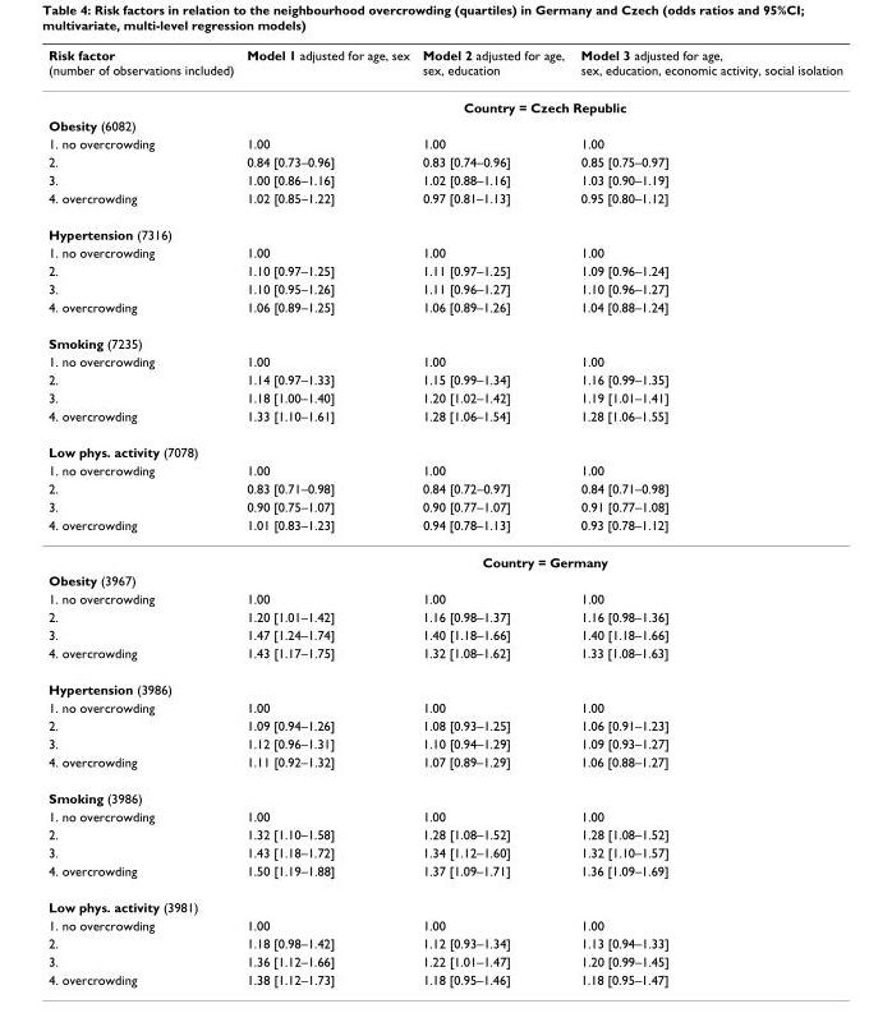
<table><thead><tr><td>Risk factor (number of observations included)</td><td>Model 1 adjusted for age, sex</td><td>Model 2 adjusted for age, sex, education</td><td>Model 3 adjusted for age, sex, education, economic activity, social isolation</td></tr></thead><tbody><tr><td></td><td colspan="3">Country = Czech Republic</td></tr><tr><td colspan="4">Obesity (6082)</td></tr><tr><td>1. no overcrowding</td><td>1.00</td><td>1.00</td><td>1.00</td></tr><tr><td>2.</td><td>0.84 [0.73–0.96]</td><td>0.83 [0.74–0.96]</td><td>0.85 [0.75–0.97]</td></tr><tr><td>3.</td><td>1.00 [0.86–1.16]</td><td>1.02 [0.88–1.16]</td><td>1.03 [0.90–1.19]</td></tr><tr><td>4. overcrowding</td><td>1.02 [0.85–1.22]</td><td>0.97 [0.81–1.13]</td><td>0.95 [0.80–1.12]</td></tr><tr><td colspan="4">Hypertension (7316)</td></tr><tr><td>1. no overcrowding</td><td>1.00</td><td>1.00</td><td>1.00</td></tr><tr><td>2.</td><td>1.10 [0.97–1.25]</td><td>1.11 [0.97–1.25]</td><td>1.09 [0.96–1.24]</td></tr><tr><td>3.</td><td>1.10 [0.95–1.26]</td><td>1.11 [0.96–1.27]</td><td>1.10 [0.96–1.27]</td></tr><tr><td>4. overcrowding</td><td>1.06 [0.89–1.25]</td><td>1.06 [0.89–1.26]</td><td>1.04 [0.88–1.24]</td></tr><tr><td colspan="4">Smoking (7235)</td></tr><tr><td>1. no overcrowding</td><td>1.00</td><td>1.00</td><td>1.00</td></tr><tr><td>2.</td><td>1.14 [0.97–1.33]</td><td>1.15 [0.99–1.34]</td><td>1.16 [0.99–1.35]</td></tr><tr><td>3.</td><td>1.18 [1.00–1.40]</td><td>1.20 [1.02–1.42]</td><td>1.19 [1.01–1.41]</td></tr><tr><td>4. overcrowding</td><td>1.33 [1.10–1.61]</td><td>1.28 [1.06–1.54]</td><td>1.28 [1.06–1.55]</td></tr><tr><td colspan="4">Low phys. activity (7078)</td></tr><tr><td>1. no overcrowding</td><td>1.00</td><td>1.00</td><td>1.00</td></tr><tr><td>2.</td><td>0.83 [0.71–0.98]</td><td>0.84 [0.72–0.97]</td><td>0.84 [0.71–0.98]</td></tr><tr><td>3.</td><td>0.90 [0.75–1.07]</td><td>0.90 [0.77–1.07]</td><td>0.91 [0.77–1.08]</td></tr><tr><td rowspan="2">4. overcrowding</td><td>1.01 [0.83–1.23]</td><td>0.94 [0.78–1.13]</td><td>0.93 [0.78–1.12]</td></tr><tr><td colspan="3">Country = Germany</td></tr><tr><td colspan="4">Obesity (3967)</td></tr><tr><td>1. no overcrowding</td><td>1.00</td><td>1.00</td><td>1.00</td></tr><tr><td>2.</td><td>1.20 [1.01–1.42]</td><td>1.16 [0.98–1.37]</td><td>1.16 [0.98–1.36]</td></tr><tr><td>3.</td><td>1.47 [1.24–1.74]</td><td>1.40 [1.18–1.66]</td><td>1.40 [1.18–1.66]</td></tr><tr><td>4. overcrowding</td><td>1.43 [1.17–1.75]</td><td>1.32 [1.08–1.62]</td><td>1.33 [1.08–1.63]</td></tr><tr><td colspan="4">Hypertension (3986)</td></tr><tr><td>1. no overcrowding</td><td>1.00</td><td>1.00</td><td>1.00</td></tr><tr><td>2.</td><td>1.09 [0.94–1.26]</td><td>1.08 [0.93–1.25]</td><td>1.06 [0.91–1.23]</td></tr><tr><td>3.</td><td>1.12 [0.96–1.31]</td><td>1.10 [0.94–1.29]</td><td>1.09 [0.93–1.27]</td></tr><tr><td>4. overcrowding</td><td>1.11 [0.92–1.32]</td><td>1.07 [0.89–1.29]</td><td>1.06 [0.88–1.27]</td></tr><tr><td colspan="4">Smoking (3986)</td></tr><tr><td>1. no overcrowding</td><td>1.00</td><td>1.00</td><td>1.00</td></tr><tr><td>2.</td><td>1.32 [1.10–1.58]</td><td>1.28 [1.08–1.52]</td><td>1.28 [1.08–1.52]</td></tr><tr><td>3.</td><td>1.43 [1.18–1.72]</td><td>1.34 [1.12–1.60]</td><td>1.32 [1.10–1.57]</td></tr><tr><td>4. overcrowding</td><td>1.50 [1.19–1.88]</td><td>1.37 [1.09–1.71]</td><td>1.36 [1.09–1.69]</td></tr><tr><td colspan="4">Low phys. activity (3981)</td></tr><tr><td>1. no overcrowding</td><td>1.00</td><td>1.00</td><td>1.00</td></tr><tr><td>2.</td><td>1.18 [0.98–1.42]</td><td>1.12 [0.93–1.34]</td><td>1.13 [0.94–1.33]</td></tr><tr><td>3.</td><td>1.36 [1.12–1.66]</td><td>1.22 [1.01–1.47]</td><td>1.20 [0.99–1.45]</td></tr><tr><td>4. overcrowding</td><td>1.38 [1.12–1.73]</td><td>1.18 [0.95–1.46]</td><td>1.18 [0.95–1.47]</td></tr></tbody></table>